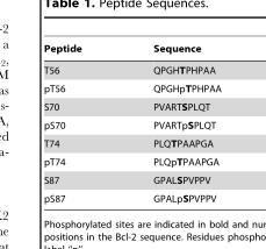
<table><thead><tr><td>Peptide</td><td>Sequence</td></tr></thead><tbody><tr><td>T56</td><td>QPGHTPHPAA</td></tr><tr><td>pT56</td><td>QPGHpTPHPAA</td></tr><tr><td>S70</td><td>PVARTSPLQT</td></tr><tr><td>pS70</td><td>PVARTpSPLQT</td></tr><tr><td>T74</td><td>PLQTPAAPGA</td></tr><tr><td>pT74</td><td>PLQpTPAAPGA</td></tr><tr><td>S87</td><td>GPALSPVPPV</td></tr><tr><td>pS87</td><td>GPALpSPVPPV</td></tr></tbody></table>